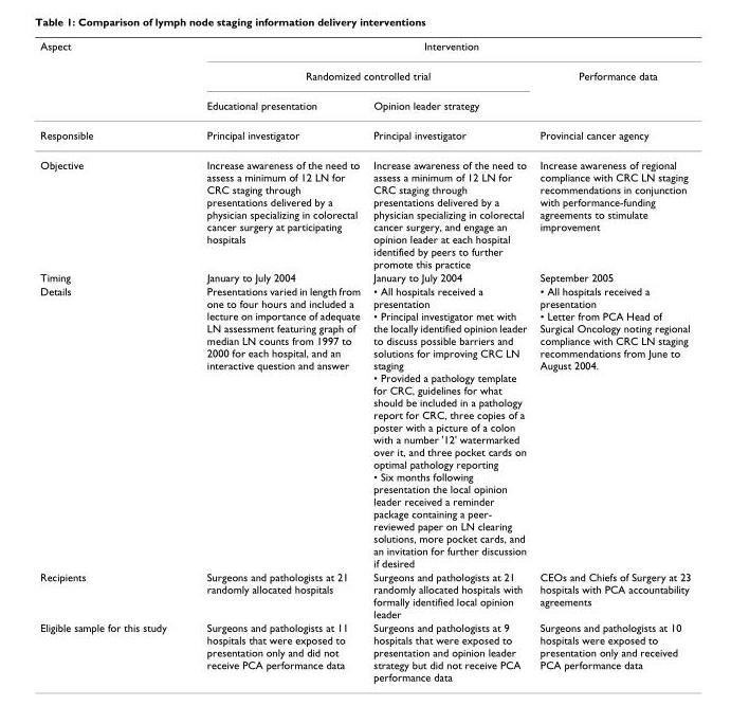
<table><thead><tr><td rowspan="3">Aspect</td><td colspan="3">Intervention</td></tr><tr><td colspan="2">Randomized controlled trial</td><td rowspan="2">Performance data</td></tr><tr><td>Educational presentation</td><td>Opinion leader strategy</td></tr></thead><tbody><tr><td>Responsible</td><td>Principal investigator</td><td>Principal investigator</td><td>Provincial cancer agency</td></tr><tr><td>Objective</td><td>Increase awareness of the need to assess a minimum of 12 LN for CRC staging through presentations delivered by a physician specializing in colorectal cancer surgery at participating hospitals</td><td>Increase awareness of the need to assess a minimum of 12 LN for CRC staging through presentations delivered by a physician specializing in colorectal cancer surgery, and engage an opinion leader at each hospital identified by peers to further promote this practice</td><td>Increase awareness of regional compliance with CRC LN staging recommendations in conjunction with performance-funding agreements to stimulate improvement</td></tr><tr><td>Timing</td><td>January to July 2004</td><td>January to July 2004</td><td>September 2005</td></tr><tr><td>Details</td><td>Presentations varied in length from one to four hours and included a lecture on importance of adequate LN assessment featuring graph of median LN counts from 1997 to 2000 for each hospital, and an interactive question and answer</td><td>• All hospitals received a presentation • Principal investigator met with the locally identified opinion leader to discuss possible barriers and solutions for improving CRC LN staging • Provided a pathology template for CRC, guidelines for what should be included in a pathology report for CRC, three copies of a poster with a picture of a colon with a number &#x27;12&#x27; watermarked over it, and three pocket cards on optimal pathology reporting • Six months following presentation the local opinion leader received a reminder package containing a peer- reviewed paper on LN clearing solutions, more pocket cards, and an invitation for further discussion if desired</td><td>• All hospitals received a presentation • Letter from PCA Head of Surgical Oncology noting regional compliance with CRC LN staging recommendations from June to August 2004.</td></tr><tr><td>Recipients</td><td>Surgeons and pathologists at 21 randomly allocated hospitals</td><td>Surgeons and pathologists at 21 randomly allocated hospitals with formally identified local opinion leader</td><td>CEOs and Chiefs of Surgery at 23 hospitals with PCA accountability agreements</td></tr><tr><td>Eligible sample for this study</td><td>Surgeons and pathologists at 11 hospitals that were exposed to presentation only and did not receive PCA performance data</td><td>Surgeons and pathologists at 9 hospitals that were exposed to presentation and opinion leader strategy but did not receive PCA performance data</td><td>Surgeons and pathologists at 10 hospitals were exposed to presentation only and received PCA performance data</td></tr></tbody></table>